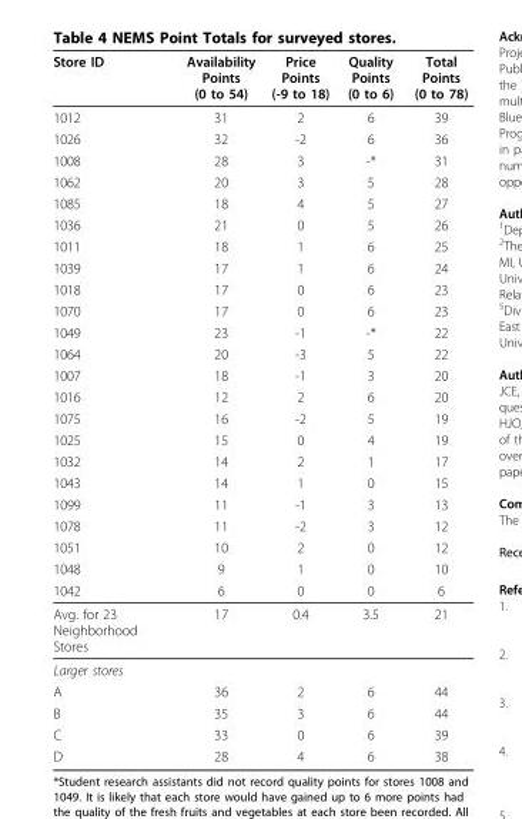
<table><thead><tr><td>Store ID</td><td>Availability Points (0 to 54)</td><td>Price Points (-9 to 18)</td><td>Quality Points (0 to 6)</td><td>Total Points (0 to 78)</td></tr></thead><tbody><tr><td>1012</td><td>31</td><td>2</td><td>6</td><td>39</td></tr><tr><td>1026</td><td>32</td><td>-2</td><td>6</td><td>36</td></tr><tr><td>1008</td><td>28</td><td>3</td><td>-*</td><td>31</td></tr><tr><td>1062</td><td>20</td><td>3</td><td>5</td><td>28</td></tr><tr><td>1085</td><td>18</td><td>4</td><td>5</td><td>27</td></tr><tr><td>1036</td><td>21</td><td>0</td><td>5</td><td>26</td></tr><tr><td>1011</td><td>18</td><td>1</td><td>6</td><td>25</td></tr><tr><td>1039</td><td>17</td><td>1</td><td>6</td><td>24</td></tr><tr><td>1018</td><td>17</td><td>0</td><td>6</td><td>23</td></tr><tr><td>1070</td><td>17</td><td>0</td><td>6</td><td>23</td></tr><tr><td>1049</td><td>23</td><td>-1</td><td>-*</td><td>22</td></tr><tr><td>1064</td><td>20</td><td>-3</td><td>5</td><td>22</td></tr><tr><td>1007</td><td>18</td><td>-1</td><td>3</td><td>20</td></tr><tr><td>1016</td><td>12</td><td>2</td><td>6</td><td>20</td></tr><tr><td>1075</td><td>16</td><td>-2</td><td>5</td><td>19</td></tr><tr><td>1025</td><td>15</td><td>0</td><td>4</td><td>19</td></tr><tr><td>1032</td><td>14</td><td>2</td><td>1</td><td>17</td></tr><tr><td>1043</td><td>14</td><td>1</td><td>0</td><td>15</td></tr><tr><td>1099</td><td>11</td><td>-1</td><td>3</td><td>13</td></tr><tr><td>1078</td><td>11</td><td>-2</td><td>3</td><td>12</td></tr><tr><td>1051</td><td>10</td><td>2</td><td>0</td><td>12</td></tr><tr><td>1048</td><td>9</td><td>1</td><td>0</td><td>10</td></tr><tr><td>1042</td><td>6</td><td>0</td><td>0</td><td>6</td></tr><tr><td>Avg. for 23 Neighborhood Stores</td><td>17</td><td>0.4</td><td>3.5</td><td>21</td></tr><tr><td colspan="5">Larger stores</td></tr><tr><td>A</td><td>36</td><td>2</td><td>6</td><td>44</td></tr><tr><td>B</td><td>35</td><td>3</td><td>6</td><td>44</td></tr><tr><td>C</td><td>33</td><td>0</td><td>6</td><td>39</td></tr><tr><td>D</td><td>28</td><td>4</td><td>6</td><td>38</td></tr></tbody></table>